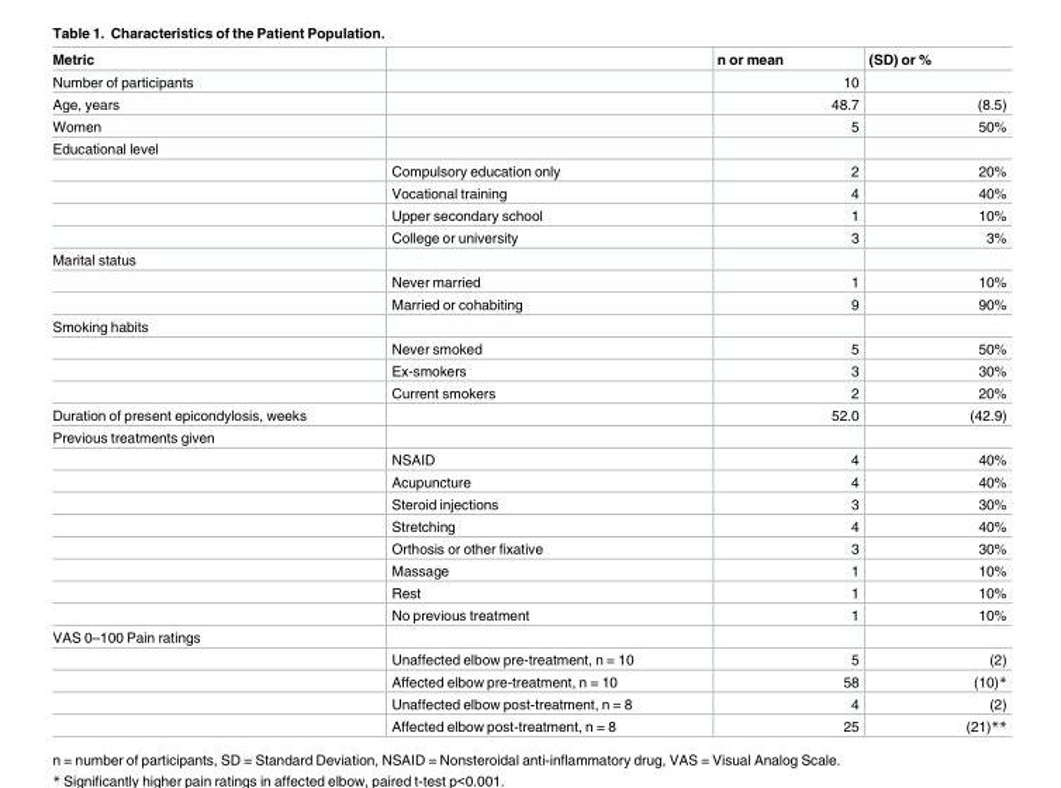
<table><thead><tr><td>Metric</td><td></td><td>n or mean</td><td>(SD) or %</td></tr></thead><tbody><tr><td>Number of participants</td><td></td><td>10</td><td></td></tr><tr><td>Age, years</td><td></td><td>48.7</td><td>(8.5)</td></tr><tr><td>Women</td><td></td><td>5</td><td>50%</td></tr><tr><td colspan="4">Educational level</td></tr><tr><td></td><td>Compulsory education only</td><td>2</td><td>20%</td></tr><tr><td></td><td>Vocational training</td><td>4</td><td>40%</td></tr><tr><td></td><td>Upper secondary school</td><td>1</td><td>10%</td></tr><tr><td></td><td>College or university</td><td>3</td><td>3%</td></tr><tr><td colspan="4">Marital status</td></tr><tr><td></td><td>Never married</td><td>1</td><td>10%</td></tr><tr><td></td><td>Married or cohabiting</td><td>9</td><td>90%</td></tr><tr><td colspan="4">Smoking habits</td></tr><tr><td></td><td>Never smoked</td><td>5</td><td>50%</td></tr><tr><td></td><td>Ex-smokers</td><td>3</td><td>30%</td></tr><tr><td></td><td>Current smokers</td><td>2</td><td>20%</td></tr><tr><td>Duration of present epicondylosis, weeks</td><td></td><td>52.0</td><td>(42.9)</td></tr><tr><td colspan="4">Previous treatments given</td></tr><tr><td></td><td>NSAID</td><td>4</td><td>40%</td></tr><tr><td></td><td>Acupuncture</td><td>4</td><td>40%</td></tr><tr><td></td><td>Steroid injections</td><td>3</td><td>30%</td></tr><tr><td></td><td>Stretching</td><td>4</td><td>40%</td></tr><tr><td></td><td>Orthosis or other fixative</td><td>3</td><td>30%</td></tr><tr><td></td><td>Massage</td><td>1</td><td>10%</td></tr><tr><td></td><td>Rest</td><td>1</td><td>10%</td></tr><tr><td></td><td>No previous treatment</td><td>1</td><td>10%</td></tr><tr><td colspan="4">VAS 0–100 Pain ratings</td></tr><tr><td></td><td>Unaffected elbow pre-treatment, n = 10</td><td>5</td><td>(2)</td></tr><tr><td></td><td>Affected elbow pre-treatment, n = 10</td><td>58</td><td>(10)*</td></tr><tr><td></td><td>Unaffected elbow post-treatment, n = 8</td><td>4</td><td>(2)</td></tr><tr><td></td><td>Affected elbow post-treatment, n = 8</td><td>25</td><td>(21)**</td></tr></tbody></table>